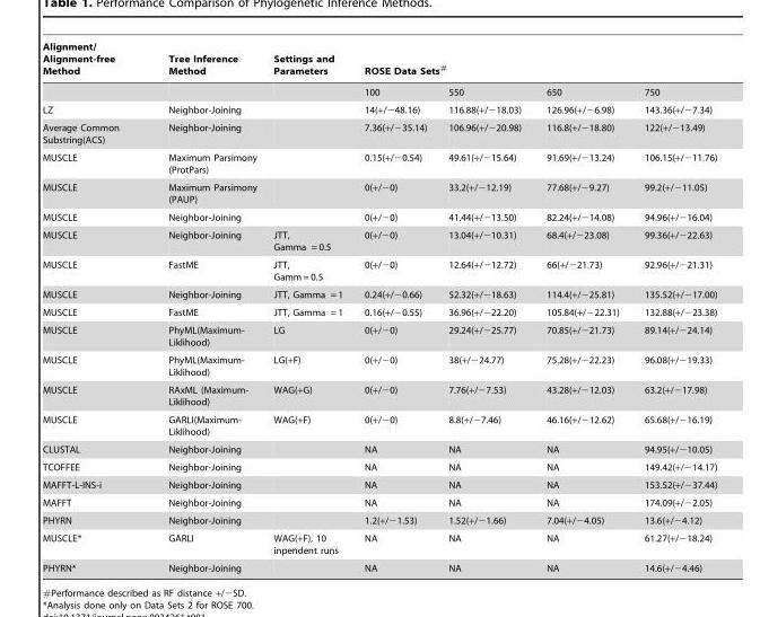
<table><thead><tr><td rowspan="2">Alignment/ Alignment-free Method</td><td rowspan="2">Tree Inference Method</td><td rowspan="2">Settings and Parameters</td><td colspan="4">ROSE Data Sets#</td></tr><tr><td>100</td><td>550</td><td>650</td><td>750</td></tr></thead><tbody><tr><td>LZ</td><td>Neighbor-Joining</td><td></td><td>14(+/−48.16)</td><td>116.88(+/−18.03)</td><td>126.96(+/−6.98)</td><td>143.36(+/−7.34)</td></tr><tr><td>Average Common Substring(ACS)</td><td>Neighbor-Joining</td><td></td><td>7.36(+/−35.14)</td><td>106.96(+/−20.98)</td><td>116.8(+/−18.80)</td><td>122(+/−13.49)</td></tr><tr><td>MUSCLE</td><td>Maximum Parsimony (ProtPars)</td><td></td><td>0.15(+/−0.54)</td><td>49.61(+/−15.64)</td><td>91.69(+/−13.24)</td><td>106.15(+/−11.76)</td></tr><tr><td>MUSCLE</td><td>Maximum Parsimony (PAUP)</td><td></td><td>0(+/−0)</td><td>33.2(+/−12.19)</td><td>77.68(+/−9.27)</td><td>99.2(+/−11.05)</td></tr><tr><td>MUSCLE</td><td>Neighbor-Joining</td><td></td><td>0(+/−0)</td><td>41.44(+/−13.50)</td><td>82.24(+/−14.08)</td><td>94.96(+/−16.04)</td></tr><tr><td>MUSCLE</td><td>Neighbor-Joining</td><td>JTT, Gamma = 0.5</td><td>0(+/−0)</td><td>13.04(+/−10.31)</td><td>68.4(+/−23.08)</td><td>99.36(+/−22.63)</td></tr><tr><td>MUSCLE</td><td>FastME</td><td>JTT, Gamm = 0.5</td><td>0(+/−0)</td><td>12.64(+/−12.72)</td><td>66(+/−21.73)</td><td>92.96(+/−21.31)</td></tr><tr><td>MUSCLE</td><td>Neighbor-Joining</td><td>JTT, Gamma = 1</td><td>0.24(+/−0.66)</td><td>52.32(+/−18.63)</td><td>114.4(+/−25.81)</td><td>135.52(+/−17.00)</td></tr><tr><td>MUSCLE</td><td>FastME</td><td>JTT, Gamma = 1</td><td>0.16(+/−0.55)</td><td>36.96(+/−22.20)</td><td>105.84(+/−22.31)</td><td>132.88(+/−23.38)</td></tr><tr><td>MUSCLE</td><td>PhyML(Maximum- Liklihood)</td><td>LG</td><td>0(+/−0)</td><td>29.24(+/−25.77)</td><td>70.85(+/−21.73)</td><td>89.14(+/−24.14)</td></tr><tr><td>MUSCLE</td><td>PhyML(Maximum- Liklihood)</td><td>LG(+F)</td><td>0(+/−0)</td><td>38(+/−24.77)</td><td>75.28(+/−22.23)</td><td>96.08(+/−19.33)</td></tr><tr><td>MUSCLE</td><td>RAxML (Maximum- Liklihood)</td><td>WAG(+G)</td><td>0(+/−0)</td><td>7.76(+/−7.53)</td><td>43.28(+/−12.03)</td><td>63.2(+/−17.98)</td></tr><tr><td>MUSCLE</td><td>GARLI(Maximum- Liklihood)</td><td>WAG(+F)</td><td>0(+/−0)</td><td>8.8(+/−7.46)</td><td>46.16(+/−12.62)</td><td>65.68(+/−16.19)</td></tr><tr><td>CLUSTAL</td><td>Neighbor-Joining</td><td></td><td>NA</td><td>NA</td><td>NA</td><td>94.95(+/−10.05)</td></tr><tr><td>TCOFFEE</td><td>Neighbor-Joining</td><td></td><td>NA</td><td>NA</td><td>NA</td><td>149.42(+/−14.17)</td></tr><tr><td>MAFFT-L-INS-i</td><td>Neighbor-Joining</td><td></td><td>NA</td><td>NA</td><td>NA</td><td>153.52(+/−37.44)</td></tr><tr><td>MAFFT</td><td>Neighbor-Joining</td><td></td><td>NA</td><td>NA</td><td>NA</td><td>174.09(+/−2.05)</td></tr><tr><td>PHYRN</td><td>Neighbor-Joining</td><td></td><td>1.2(+/−1.53)</td><td>1.52(+/−1.66)</td><td>7.04(+/−4.05)</td><td>13.6(+/−4.12)</td></tr><tr><td>MUSCLE*</td><td>GARLI</td><td>WAG(+F), 10 inpendent runs</td><td>NA</td><td>NA</td><td>NA</td><td>61.27(+/−18.24)</td></tr><tr><td>PHYRN*</td><td>Neighbor-Joining</td><td></td><td>NA</td><td>NA</td><td>NA</td><td>14.6(+/−4.46)</td></tr></tbody></table>